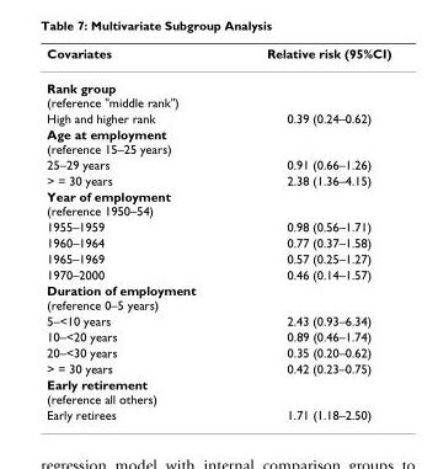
<table><thead><tr><td>Covariates</td><td>Relative risk (95%CI)</td></tr></thead><tbody><tr><td colspan="2">Rank group (reference &quot;middle rank&quot;)</td></tr><tr><td>High and higher rank</td><td>0.39 (0.24–0.62)</td></tr><tr><td colspan="2">Age at employment (reference 15–25 years)</td></tr><tr><td>25–29 years</td><td>0.91 (0.66–1.26)</td></tr><tr><td>&gt; = 30 years</td><td>2.38 (1.36–4.15)</td></tr><tr><td colspan="2">Year of employment (reference 1950–54)</td></tr><tr><td>1955–1959</td><td>0.98 (0.56–1.71)</td></tr><tr><td>1960–1964</td><td>0.77 (0.37–1.58)</td></tr><tr><td>1965–1969</td><td>0.57 (0.25–1.27)</td></tr><tr><td>1970–2000</td><td>0.46 (0.14–1.57)</td></tr><tr><td colspan="2">Duration of employment (reference 0–5 years)</td></tr><tr><td>5–&lt;10 years</td><td>2.43 (0.93–6.34)</td></tr><tr><td>10–&lt;20 years</td><td>0.89 (0.46–1.74)</td></tr><tr><td>20–&lt;30 years</td><td>0.35 (0.20–0.62)</td></tr><tr><td>&gt; = 30 years</td><td>0.42 (0.23–0.75)</td></tr><tr><td colspan="2">Early retirement (reference all others)</td></tr><tr><td>Early retirees</td><td>1.71 (1.18–2.50)</td></tr></tbody></table>